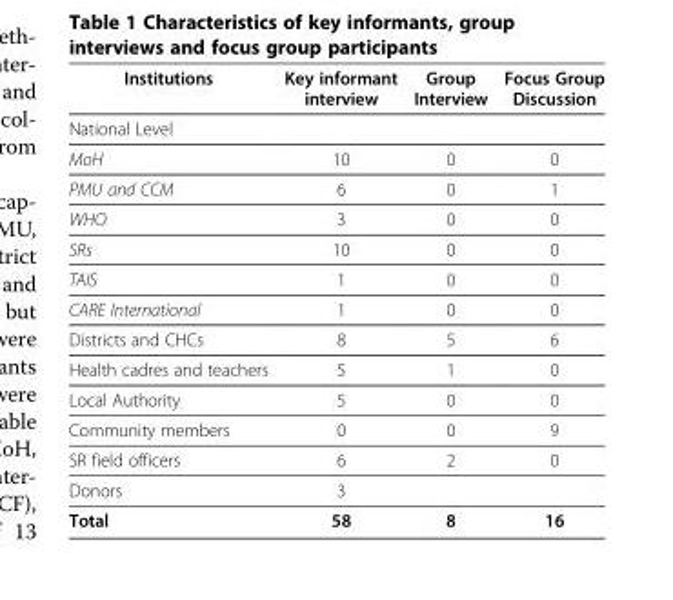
<table><thead><tr><td>Institutions</td><td>Key informant interview</td><td>Group Interview</td><td>Focus Group Discussion</td></tr></thead><tbody><tr><td colspan="4">National Level</td></tr><tr><td>MoH</td><td>10</td><td>0</td><td>0</td></tr><tr><td>PMU and CCM</td><td>6</td><td>0</td><td>1</td></tr><tr><td>WHO</td><td>3</td><td>0</td><td>0</td></tr><tr><td>SRs</td><td>10</td><td>0</td><td>0</td></tr><tr><td>TAIS</td><td>1</td><td>0</td><td>0</td></tr><tr><td>CARE International</td><td>1</td><td>0</td><td>0</td></tr><tr><td>Districts and CHCs</td><td>8</td><td>5</td><td>6</td></tr><tr><td>Health cadres and teachers</td><td>5</td><td>1</td><td>0</td></tr><tr><td>Local Authority</td><td>5</td><td>0</td><td>0</td></tr><tr><td>Community members</td><td>0</td><td>0</td><td>9</td></tr><tr><td>SR field officers</td><td>6</td><td>2</td><td>0</td></tr><tr><td>Donors</td><td>3</td><td></td><td></td></tr><tr><td>Total</td><td>58</td><td>8</td><td>16</td></tr></tbody></table>